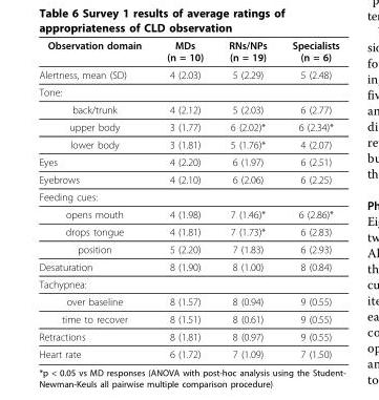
<table><thead><tr><td>Observation domain</td><td>MDs (n = 10)</td><td>RNs/NPs (n = 19)</td><td>Specialists (n = 6)</td></tr></thead><tbody><tr><td>Alertness, mean (SD)</td><td>4 (2.03)</td><td>5 (2.29)</td><td>5 (2.48)</td></tr><tr><td colspan="4">Tone:</td></tr><tr><td>back/trunk</td><td>4 (2.12)</td><td>5 (2.03)</td><td>6 (2.77)</td></tr><tr><td>upper body</td><td>3 (1.77)</td><td>6 (2.02)*</td><td>6 (2.34)*</td></tr><tr><td>lower body</td><td>3 (1.81)</td><td>5 (1.76)*</td><td>4 (2.07)</td></tr><tr><td>Eyes</td><td>4 (2.20)</td><td>6 (1.97)</td><td>6 (2.51)</td></tr><tr><td>Eyebrows</td><td>4 (2.10)</td><td>6 (2.06)</td><td>6 (2.25)</td></tr><tr><td colspan="4">Feeding cues:</td></tr><tr><td>opens mouth</td><td>4 (1.98)</td><td>7 (1.46)*</td><td>6 (2.86)*</td></tr><tr><td>drops tongue</td><td>4 (1.81)</td><td>7 (1.73)*</td><td>6 (2.83)</td></tr><tr><td>position</td><td>5 (2.20)</td><td>7 (1.83)</td><td>6 (2.93)</td></tr><tr><td>Desaturation</td><td>8 (1.90)</td><td>8 (1.00)</td><td>8 (0.84)</td></tr><tr><td colspan="4">Tachypnea:</td></tr><tr><td>over baseline</td><td>8 (1.57)</td><td>8 (0.94)</td><td>9 (0.55)</td></tr><tr><td>time to recover</td><td>8 (1.51)</td><td>8 (0.61)</td><td>9 (0.55)</td></tr><tr><td>Retractions</td><td>8 (1.81)</td><td>8 (0.97)</td><td>9 (0.55)</td></tr><tr><td>Heart rate</td><td>6 (1.72)</td><td>7 (1.09)</td><td>7 (1.50)</td></tr></tbody></table>